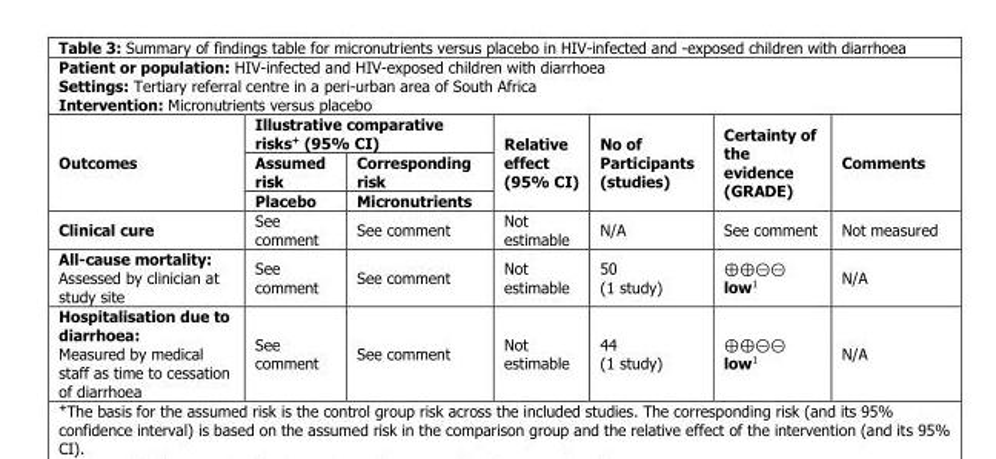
<table><tbody><tr><td colspan="7">Patient or population: HIV-infected and HIV-exposed children with diarrhoea Settings: Tertiary referral centre in a peri-urban area of South Africa Intervention: Micronutrients versus placebo</td></tr><tr><td rowspan="3">Outcomes</td><td colspan="2">Illustrative comparative risks<sup>+</sup> (95% CI)</td><td rowspan="3">Relative effect (95% CI)</td><td rowspan="3">No of Participants (studies)</td><td rowspan="3">Certainty of the evidence (GRADE)</td><td rowspan="3">Comments</td></tr><tr><td>Assumed risk</td><td>Corresponding risk</td></tr><tr><td>Placebo</td><td>Micronutrients</td></tr><tr><td>Clinical cure</td><td>See comment</td><td>See comment</td><td>Not estimable</td><td>N/A</td><td>See comment</td><td>Not measured</td></tr><tr><td>All-cause mortality: Assessed by clinician at study site</td><td>See comment</td><td>See comment</td><td>Not estimable</td><td>50 (1 study)</td><td>⊕⊕⊝⊝ low<sup>1</sup></td><td>N/A</td></tr><tr><td>Hospitalisation due to diarrhoea: Measured by medical staff as time to cessation of diarrhoea</td><td>See comment</td><td>See comment</td><td>Not estimable</td><td>44 (1 study)</td><td>⊕⊕⊝⊝ low<sup>1</sup></td><td>N/A</td></tr></tbody></table>